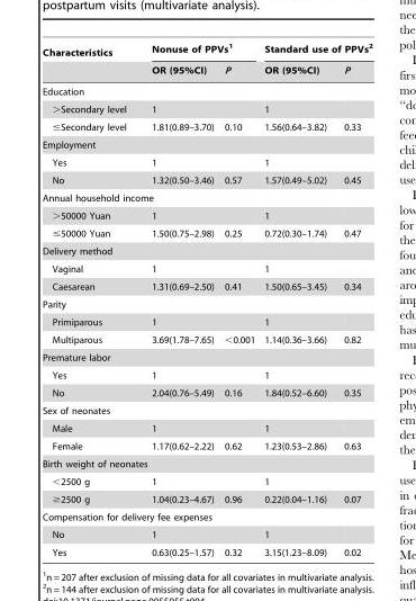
<table><thead><tr><td rowspan="2">Characteristics</td><td colspan="2">Nonuse of PPVs<sup>1</sup></td><td colspan="2">Standard use of PPVs<sup>2</sup></td></tr><tr><td>OR (95%CI)</td><td>P</td><td>OR (95%CI)</td><td>P</td></tr></thead><tbody><tr><td colspan="5">Education</td></tr><tr><td>&gt;Secondary level</td><td>1</td><td></td><td>1</td><td></td></tr><tr><td>≤Secondary level</td><td>1.81(0.89–3.70)</td><td>0.10</td><td>1.56(0.64–3.82)</td><td>0.33</td></tr><tr><td colspan="5">Employment</td></tr><tr><td>Yes</td><td>1</td><td></td><td>1</td><td></td></tr><tr><td>No</td><td>1.32(0.50–3.46)</td><td>0.57</td><td>1.57(0.49–5.02)</td><td>0.45</td></tr><tr><td colspan="5">Annual household income</td></tr><tr><td>&gt;50000 Yuan</td><td>1</td><td></td><td>1</td><td></td></tr><tr><td>≤50000 Yuan</td><td>1.50(0.75–2.98)</td><td>0.25</td><td>0.72(0.30–1.74)</td><td>0.47</td></tr><tr><td colspan="5">Delivery method</td></tr><tr><td>Vaginal</td><td>1</td><td></td><td>1</td><td></td></tr><tr><td>Caesarean</td><td>1.31(0.69–2.50)</td><td>0.41</td><td>1.50(0.65–3.45)</td><td>0.34</td></tr><tr><td colspan="5">Parity</td></tr><tr><td>Primiparous</td><td>1</td><td></td><td>1</td><td></td></tr><tr><td>Multiparous</td><td>3.69(1.78–7.65)</td><td>&lt;0.001</td><td>1.14(0.36–3.66)</td><td>0.82</td></tr><tr><td colspan="5">Premature labor</td></tr><tr><td>Yes</td><td>1</td><td></td><td>1</td><td></td></tr><tr><td>No</td><td>2.04(0.76–5.49)</td><td>0.16</td><td>1.84(0.52–6.60)</td><td>0.35</td></tr><tr><td colspan="5">Sex of neonates</td></tr><tr><td>Male</td><td>1</td><td></td><td>1</td><td></td></tr><tr><td>Female</td><td>1.17(0.62–2.22)</td><td>0.62</td><td>1.23(0.53–2.86)</td><td>0.63</td></tr><tr><td colspan="5">Birth weight of neonates</td></tr><tr><td>&lt;2500 g</td><td>1</td><td></td><td>1</td><td></td></tr><tr><td>≥2500 g</td><td>1.04(0.23–4.67)</td><td>0.96</td><td>0.22(0.04–1.16)</td><td>0.07</td></tr><tr><td colspan="5">Compensation for delivery fee expenses</td></tr><tr><td>No</td><td>1</td><td></td><td>1</td><td></td></tr><tr><td>Yes</td><td>0.63(0.25–1.57)</td><td>0.32</td><td>3.15(1.23–8.09)</td><td>0.02</td></tr></tbody></table>